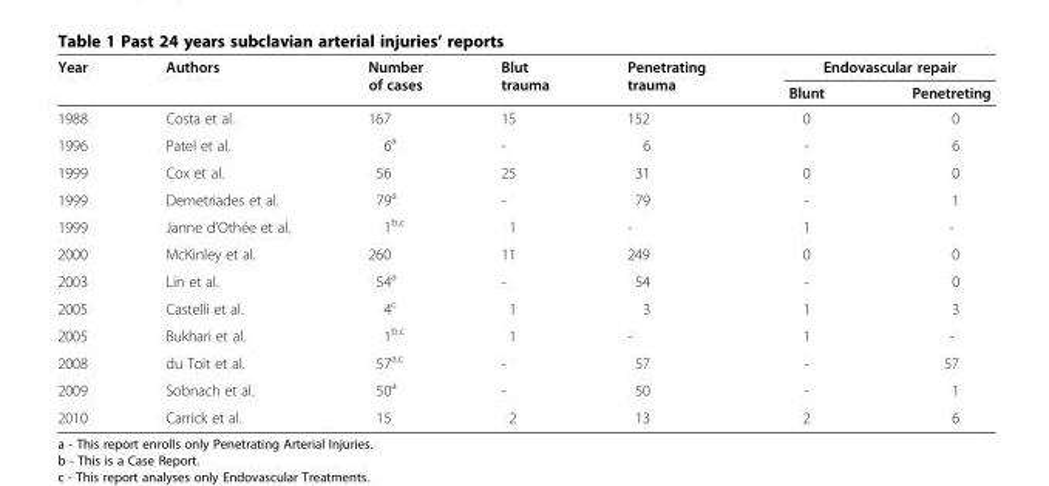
<table><thead><tr><td rowspan="2">Year</td><td rowspan="2">Authors</td><td rowspan="2">Number of cases</td><td rowspan="2">Blut trauma</td><td rowspan="2">Penetrating trauma</td><td colspan="2">Endovascular repair</td></tr><tr><td>Blunt</td><td>Penetreting</td></tr></thead><tbody><tr><td>1988</td><td>Costa et al.</td><td>167</td><td>15</td><td>152</td><td>0</td><td>0</td></tr><tr><td>1996</td><td>Patel et al.</td><td>6<sup>a</sup></td><td>-</td><td>6</td><td>-</td><td>6</td></tr><tr><td>1999</td><td>Cox et al.</td><td>56</td><td>25</td><td>31</td><td>0</td><td>0</td></tr><tr><td>1999</td><td>Demetriades et al.</td><td>79<sup>a</sup></td><td>-</td><td>79</td><td>-</td><td>1</td></tr><tr><td>1999</td><td>Janne d’Othée et al.</td><td>1<sup>b,c</sup></td><td>1</td><td>-</td><td>1</td><td>-</td></tr><tr><td>2000</td><td>McKinley et al.</td><td>260</td><td>11</td><td>249</td><td>0</td><td>0</td></tr><tr><td>2003</td><td>Lin et al.</td><td>54<sup>a</sup></td><td>-</td><td>54</td><td>-</td><td>0</td></tr><tr><td>2005</td><td>Castelli et al.</td><td>4<sup>c</sup></td><td>1</td><td>3</td><td>1</td><td>3</td></tr><tr><td>2005</td><td>Bukhari et al.</td><td>1<sup>b,c</sup></td><td>1</td><td>-</td><td>1</td><td>-</td></tr><tr><td>2008</td><td>du Toit et al.</td><td>57<sup>a,c</sup></td><td>-</td><td>57</td><td>-</td><td>57</td></tr><tr><td>2009</td><td>Sobnach et al.</td><td>50<sup>a</sup></td><td>-</td><td>50</td><td>-</td><td>1</td></tr><tr><td>2010</td><td>Carrick et al.</td><td>15</td><td>2</td><td>13</td><td>2</td><td>6</td></tr></tbody></table>